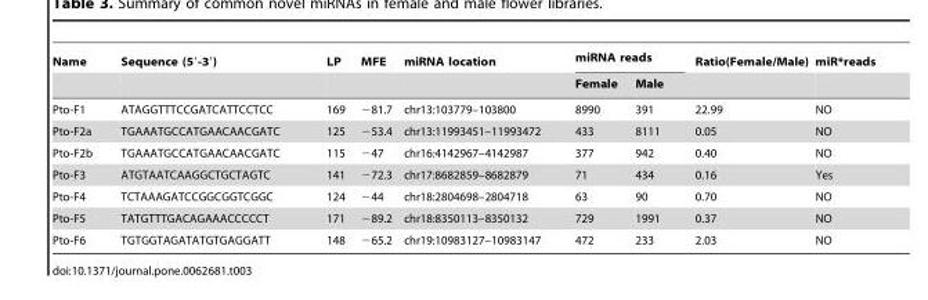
<table><thead><tr><td rowspan="2">Name</td><td rowspan="2">Sequence (5′-3′)</td><td rowspan="2">LP</td><td rowspan="2">MFE</td><td rowspan="2">miRNA location</td><td colspan="2">miRNA reads</td><td rowspan="2">Ratio(Female/Male)</td><td rowspan="2">miR*reads</td></tr><tr><td>Female</td><td>Male</td></tr></thead><tbody><tr><td>Pto-F1</td><td>ATAGGTTTCCGATCATTCCTCC</td><td>169</td><td>−81.7</td><td>chr13:103779–103800</td><td>8990</td><td>391</td><td>22.99</td><td>NO</td></tr><tr><td>Pto-F2a</td><td>TGAAATGCCATGAACAACGATC</td><td>125</td><td>−53.4</td><td>chr13:11993451–11993472</td><td>433</td><td>8111</td><td>0.05</td><td>NO</td></tr><tr><td>Pto-F2b</td><td>TGAAATGCCATGAACAACGATC</td><td>115</td><td>−47</td><td>chr16:4142967–4142987</td><td>377</td><td>942</td><td>0.40</td><td>NO</td></tr><tr><td>Pto-F3</td><td>ATGTAATCAAGGCTGCTAGTC</td><td>141</td><td>−72.3</td><td>chr17:8682859–8682879</td><td>71</td><td>434</td><td>0.16</td><td>Yes</td></tr><tr><td>Pto-F4</td><td>TCTAAAGATCCGGCGGTCGGC</td><td>124</td><td>−44</td><td>chr18:2804698–2804718</td><td>63</td><td>90</td><td>0.70</td><td>NO</td></tr><tr><td>Pto-F5</td><td>TATGTTTGACAGAAACCCCCT</td><td>171</td><td>−89.2</td><td>chr18:8350113–8350132</td><td>729</td><td>1991</td><td>0.37</td><td>NO</td></tr><tr><td>Pto-F6</td><td>TGTGGTAGATATGTGAGGATT</td><td>148</td><td>−65.2</td><td>chr19:10983127–10983147</td><td>472</td><td>233</td><td>2.03</td><td>NO</td></tr></tbody></table>